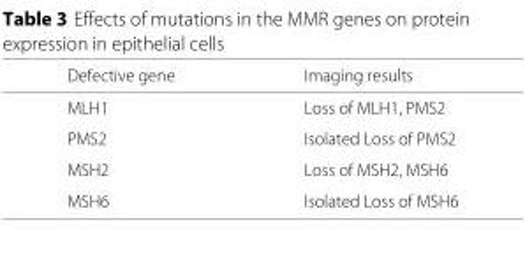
<table><thead><tr><td>Defective gene</td><td>Imaging results</td></tr></thead><tbody><tr><td>MLH1</td><td>Loss of MLH1, PMS2</td></tr><tr><td>PMS2</td><td>Isolated Loss of PMS2</td></tr><tr><td>MSH2</td><td>Loss of MSH2, MSH6</td></tr><tr><td>MSH6</td><td>Isolated Loss of MSH6</td></tr></tbody></table>